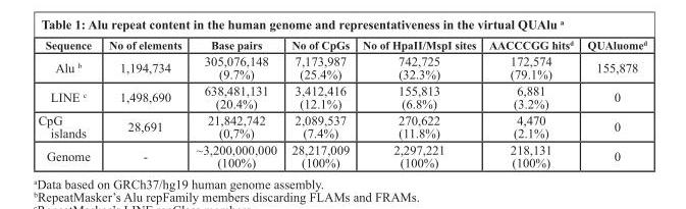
<table><thead><tr><td>Sequence</td><td>No of elements</td><td>Base pairs</td><td>No of CpGs</td><td>No of HpaII/MspI sites</td><td>AACCCGG hits<sup>d</sup></td><td>QUAluome<sup>d</sup></td></tr></thead><tbody><tr><td>Alu <sup>b</sup></td><td>1,194,734</td><td>305,076,148 (9.7%)</td><td>7,173,987 (25.4%)</td><td>742,725 (32.3%)</td><td>172,574 (79.1%)</td><td>155,878</td></tr><tr><td>LINE <sup>c</sup></td><td>1,498,690</td><td>638,481,131 (20.4%)</td><td>3,412,416 (12.1%)</td><td>155,813 (6.8%)</td><td>6,881 (3.2%)</td><td>0</td></tr><tr><td>CpG islands</td><td>28,691</td><td>21,842,742 (0,7%)</td><td>2,089,537 (7.4%)</td><td>270,622 (11.8%)</td><td>4,470 (2.1%)</td><td>0</td></tr><tr><td>Genome</td><td>-</td><td>~3,200,000,000 (100%)</td><td>28,217,009 (100%)</td><td>2,297,221 (100%)</td><td>218,131 (100%)</td><td>0</td></tr></tbody></table>